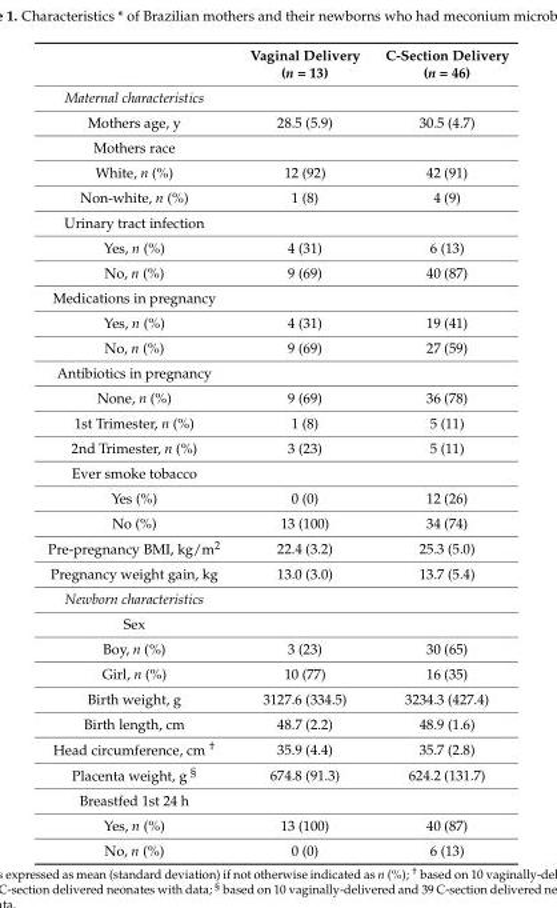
<table><thead><tr><td></td><td>Vaginal Delivery (n = 13)</td><td>C-Section Delivery (n = 46)</td></tr></thead><tbody><tr><td colspan="3">Maternal characteristics</td></tr><tr><td>Mothers age, y</td><td>28.5 (5.9)</td><td>30.5 (4.7)</td></tr><tr><td colspan="3">Mothers race</td></tr><tr><td>White, n (%)</td><td>12 (92)</td><td>42 (91)</td></tr><tr><td>Non-white, n (%)</td><td>1 (8)</td><td>4 (9)</td></tr><tr><td colspan="3">Urinary tract infection</td></tr><tr><td>Yes, n (%)</td><td>4 (31)</td><td>6 (13)</td></tr><tr><td>No, n (%)</td><td>9 (69)</td><td>40 (87)</td></tr><tr><td colspan="3">Medications in pregnancy</td></tr><tr><td>Yes, n (%)</td><td>4 (31)</td><td>19 (41)</td></tr><tr><td>No, n (%)</td><td>9 (69)</td><td>27 (59)</td></tr><tr><td colspan="3">Antibiotics in pregnancy</td></tr><tr><td>None, n (%)</td><td>9 (69)</td><td>36 (78)</td></tr><tr><td>1st Trimester, n (%)</td><td>1 (8)</td><td>5 (11)</td></tr><tr><td>2nd Trimester, n (%)</td><td>3 (23)</td><td>5 (11)</td></tr><tr><td colspan="3">Ever smoke tobacco</td></tr><tr><td>Yes (%)</td><td>0 (0)</td><td>12 (26)</td></tr><tr><td>No (%)</td><td>13 (100)</td><td>34 (74)</td></tr><tr><td>Pre-pregnancy BMI, kg/m<sup>2</sup></td><td>22.4 (3.2)</td><td>25.3 (5.0)</td></tr><tr><td>Pregnancy weight gain, kg</td><td>13.0 (3.0)</td><td>13.7 (5.4)</td></tr><tr><td colspan="3">Newborn characteristics</td></tr><tr><td colspan="3">Sex</td></tr><tr><td>Boy, n (%)</td><td>3 (23)</td><td>30 (65)</td></tr><tr><td>Girl, n (%)</td><td>10 (77)</td><td>16 (35)</td></tr><tr><td>Birth weight, g</td><td>3127.6 (334.5)</td><td>3234.3 (427.4)</td></tr><tr><td>Birth length, cm</td><td>48.7 (2.2)</td><td>48.9 (1.6)</td></tr><tr><td>Head circumference, cm <sup>†</sup></td><td>35.9 (4.4)</td><td>35.7 (2.8)</td></tr><tr><td>Placenta weight, g <sup>§</sup></td><td>674.8 (91.3)</td><td>624.2 (131.7)</td></tr><tr><td colspan="3">Breastfed 1st 24 h</td></tr><tr><td>Yes, n (%)</td><td>13 (100)</td><td>40 (87)</td></tr><tr><td>No, n (%)</td><td>0 (0)</td><td>6 (13)</td></tr></tbody></table>